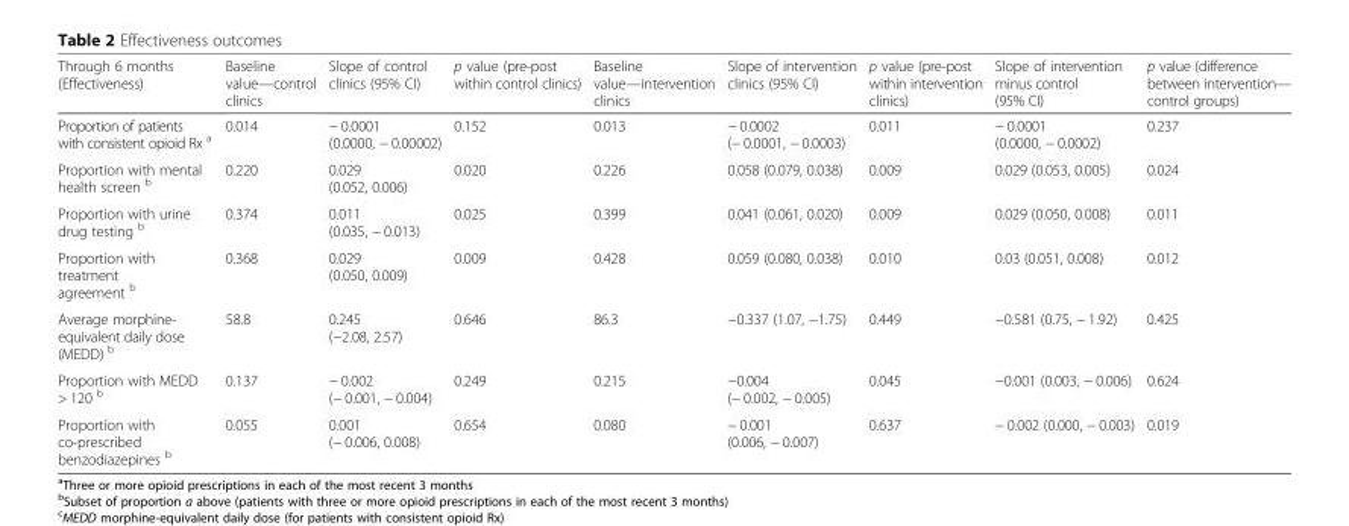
<table><thead><tr><td>Through 6 months (Effectiveness)</td><td>Baseline value—control clinics</td><td>Slope of control clinics (95% CI)</td><td>p value (pre-post within control clinics)</td><td>Baseline value—intervention clinics</td><td>Slope of intervention clinics (95% CI)</td><td>p value (pre-post within intervention clinics)</td><td>Slope of intervention minus control (95% CI)</td><td>p value (difference between intervention— control groups)</td></tr></thead><tbody><tr><td>Proportion of patients with consistent opioid Rx <sup>a</sup></td><td>0.014</td><td>− 0.0001 (0.0000, − 0.00002)</td><td>0.152</td><td>0.013</td><td>− 0.0002 (− 0.0001, − 0.0003)</td><td>0.011</td><td>− 0.0001 (0.0000, − 0.0002)</td><td>0.237</td></tr><tr><td>Proportion with mental health screen <sup>b</sup></td><td>0.220</td><td>0.029 (0.052, 0.006)</td><td>0.020</td><td>0.226</td><td>0.058 (0.079, 0.038)</td><td>0.009</td><td>0.029 (0.053, 0.005)</td><td>0.024</td></tr><tr><td>Proportion with urine drug testing <sup>b</sup></td><td>0.374</td><td>0.011 (0.035, − 0.013)</td><td>0.025</td><td>0.399</td><td>0.041 (0.061, 0.020)</td><td>0.009</td><td>0.029 (0.050, 0.008)</td><td>0.011</td></tr><tr><td>Proportion with treatment agreement <sup>b</sup></td><td>0.368</td><td>0.029 (0.050, 0.009)</td><td>0.009</td><td>0.428</td><td>0.059 (0.080, 0.038)</td><td>0.010</td><td>0.03 (0.051, 0.008)</td><td>0.012</td></tr><tr><td>Average morphine- equivalent daily dose (MEDD) <sup>b</sup></td><td>58.8</td><td>0.245 (−2.08, 2.57)</td><td>0.646</td><td>86.3</td><td>−0.337 (1.07, −1.75)</td><td>0.449</td><td>−0.581 (0.75, − 1.92)</td><td>0.425</td></tr><tr><td>Proportion with MEDD &gt; 120 <sup>b</sup></td><td>0.137</td><td>− 0.002 (− 0.001, − 0.004)</td><td>0.249</td><td>0.215</td><td>−0.004 (− 0.002, − 0.005)</td><td>0.045</td><td>−0.001 (0.003, − 0.006)</td><td>0.624</td></tr><tr><td>Proportion with co-prescribed benzodiazepines <sup>b</sup></td><td>0.055</td><td>0.001 (− 0.006, 0.008)</td><td>0.654</td><td>0.080</td><td>− 0.001 (0.006, − 0.007)</td><td>0.637</td><td>− 0.002 (0.000, − 0.003)</td><td>0.019</td></tr></tbody></table>